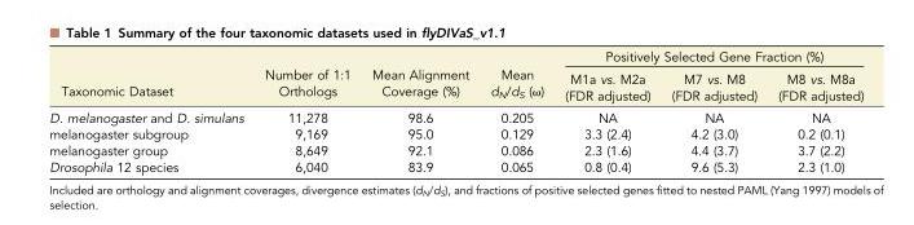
<table><thead><tr><td rowspan="2">Taxonomic Dataset</td><td rowspan="2">Number of 1:1 Orthologs</td><td rowspan="2">Mean Alignment Coverage (%)</td><td rowspan="2">Mean d<sub>N</sub>/d<sub>S</sub> (ω)</td><td colspan="3">Positively Selected Gene Fraction (%)</td></tr><tr><td>M1a vs. M2a (FDR adjusted)</td><td>M7 vs. M8 (FDR adjusted)</td><td>M8 vs. M8a (FDR adjusted)</td></tr></thead><tbody><tr><td>D. melanogaster and D. simulans</td><td>11,278</td><td>98.6</td><td>0.205</td><td>NA</td><td>NA</td><td>NA</td></tr><tr><td>melanogaster subgroup</td><td>9,169</td><td>95.0</td><td>0.129</td><td>3.3 (2.4)</td><td>4.2 (3.0)</td><td>0.2 (0.1)</td></tr><tr><td>melanogaster group</td><td>8,649</td><td>92.1</td><td>0.086</td><td>2.3 (1.6)</td><td>4.4 (3.7)</td><td>3.7 (2.2)</td></tr><tr><td>Drosophila 12 species</td><td>6,040</td><td>83.9</td><td>0.065</td><td>0.8 (0.4)</td><td>9.6 (5.3)</td><td>2.3 (1.0)</td></tr></tbody></table>